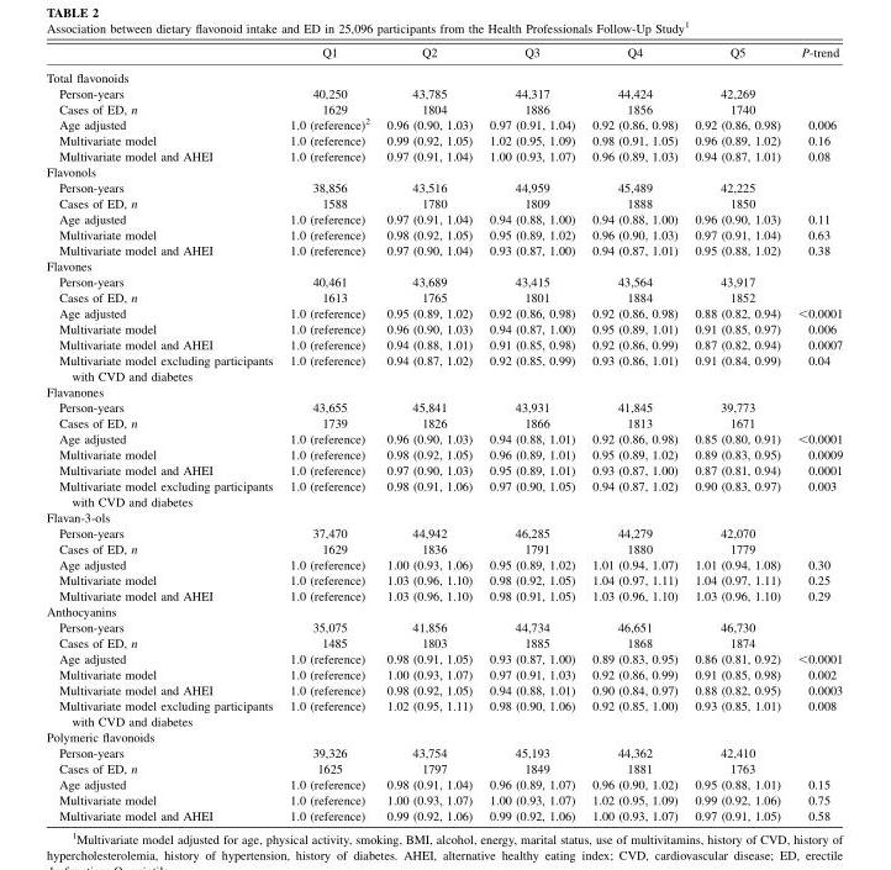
<table><thead><tr><td></td><td>Q1</td><td>Q2</td><td>Q3</td><td>Q4</td><td>Q5</td><td>P-trend</td></tr></thead><tbody><tr><td colspan="7">Total flavonoids</td></tr><tr><td>Person-years</td><td>40,250</td><td>43,785</td><td>44,317</td><td>44,424</td><td>42,269</td><td></td></tr><tr><td>Cases of ED, n</td><td>1629</td><td>1804</td><td>1886</td><td>1856</td><td>1740</td><td></td></tr><tr><td>Age adjusted</td><td>1.0 (reference)<sup>2</sup></td><td>0.96 (0.90, 1.03)</td><td>0.97 (0.91, 1.04)</td><td>0.92 (0.86, 0.98)</td><td>0.92 (0.86, 0.98)</td><td>0.006</td></tr><tr><td>Multivariate model</td><td>1.0 (reference)</td><td>0.99 (0.92, 1.05)</td><td>1.02 (0.95, 1.09)</td><td>0.98 (0.91, 1.05)</td><td>0.96 (0.89, 1.02)</td><td>0.16</td></tr><tr><td>Multivariate model and AHEI</td><td>1.0 (reference)</td><td>0.97 (0.91, 1.04)</td><td>1.00 (0.93, 1.07)</td><td>0.96 (0.89, 1.03)</td><td>0.94 (0.87, 1.01)</td><td>0.08</td></tr><tr><td colspan="7">Flavonols</td></tr><tr><td>Person-years</td><td>38,856</td><td>43,516</td><td>44,959</td><td>45,489</td><td>42,225</td><td></td></tr><tr><td>Cases of ED, n</td><td>1588</td><td>1780</td><td>1809</td><td>1888</td><td>1850</td><td></td></tr><tr><td>Age adjusted</td><td>1.0 (reference)</td><td>0.97 (0.91, 1.04)</td><td>0.94 (0.88, 1.00)</td><td>0.94 (0.88, 1.00)</td><td>0.96 (0.90, 1.03)</td><td>0.11</td></tr><tr><td>Multivariate model</td><td>1.0 (reference)</td><td>0.98 (0.92, 1.05)</td><td>0.95 (0.89, 1.02)</td><td>0.96 (0.90, 1.03)</td><td>0.97 (0.91, 1.04)</td><td>0.63</td></tr><tr><td>Multivariate model and AHEI</td><td>1.0 (reference)</td><td>0.97 (0.90, 1.04)</td><td>0.93 (0.87, 1.00)</td><td>0.94 (0.87, 1.01)</td><td>0.95 (0.88, 1.02)</td><td>0.38</td></tr><tr><td colspan="7">Flavones</td></tr><tr><td>Person-years</td><td>40,461</td><td>43,689</td><td>43,415</td><td>43,564</td><td>43,917</td><td></td></tr><tr><td>Cases of ED, n</td><td>1613</td><td>1765</td><td>1801</td><td>1884</td><td>1852</td><td></td></tr><tr><td>Age adjusted</td><td>1.0 (reference)</td><td>0.95 (0.89, 1.02)</td><td>0.92 (0.86, 0.98)</td><td>0.92 (0.86, 0.98)</td><td>0.88 (0.82, 0.94)</td><td>&lt;0.0001</td></tr><tr><td>Multivariate model</td><td>1.0 (reference)</td><td>0.96 (0.90, 1.03)</td><td>0.94 (0.87, 1.00)</td><td>0.95 (0.89, 1.01)</td><td>0.91 (0.85, 0.97)</td><td>0.006</td></tr><tr><td>Multivariate model and AHEI</td><td>1.0 (reference)</td><td>0.94 (0.88, 1.01)</td><td>0.91 (0.85, 0.98)</td><td>0.92 (0.86, 0.99)</td><td>0.87 (0.82, 0.94)</td><td>0.0007</td></tr><tr><td>Multivariate model excluding participants with CVD and diabetes</td><td>1.0 (reference)</td><td>0.94 (0.87, 1.02)</td><td>0.92 (0.85, 0.99)</td><td>0.93 (0.86, 1.01)</td><td>0.91 (0.84, 0.99)</td><td>0.04</td></tr><tr><td colspan="7">Flavanones</td></tr><tr><td>Person-years</td><td>43,655</td><td>45,841</td><td>43,931</td><td>41,845</td><td>39,773</td><td></td></tr><tr><td>Cases of ED, n</td><td>1739</td><td>1826</td><td>1866</td><td>1813</td><td>1671</td><td></td></tr><tr><td>Age adjusted</td><td>1.0 (reference)</td><td>0.96 (0.90, 1.03)</td><td>0.94 (0.88, 1.01)</td><td>0.92 (0.86, 0.98)</td><td>0.85 (0.80, 0.91)</td><td>&lt;0.0001</td></tr><tr><td>Multivariate model</td><td>1.0 (reference)</td><td>0.98 (0.92, 1.05)</td><td>0.96 (0.89, 1.01)</td><td>0.95 (0.89, 1.02)</td><td>0.89 (0.83, 0.95)</td><td>0.0009</td></tr><tr><td>Multivariate model and AHEI</td><td>1.0 (reference)</td><td>0.97 (0.90, 1.03)</td><td>0.95 (0.89, 1.01)</td><td>0.93 (0.87, 1.00)</td><td>0.87 (0.81, 0.94)</td><td>0.0001</td></tr><tr><td>Multivariate model excluding participants with CVD and diabetes</td><td>1.0 (reference)</td><td>0.98 (0.91, 1.06)</td><td>0.97 (0.90, 1.05)</td><td>0.94 (0.87, 1.02)</td><td>0.90 (0.83, 0.97)</td><td>0.003</td></tr><tr><td colspan="7">Flavan-3-ols</td></tr><tr><td>Person-years</td><td>37,470</td><td>44,942</td><td>46,285</td><td>44,279</td><td>42,070</td><td></td></tr><tr><td>Cases of ED, n</td><td>1629</td><td>1836</td><td>1791</td><td>1880</td><td>1779</td><td></td></tr><tr><td>Age adjusted</td><td>1.0 (reference)</td><td>1.00 (0.93, 1.06)</td><td>0.95 (0.89, 1.02)</td><td>1.01 (0.94, 1.07)</td><td>1.01 (0.94, 1.08)</td><td>0.30</td></tr><tr><td>Multivariate model</td><td>1.0 (reference)</td><td>1.03 (0.96, 1.10)</td><td>0.98 (0.92, 1.05)</td><td>1.04 (0.97, 1.11)</td><td>1.04 (0.97, 1.11)</td><td>0.25</td></tr><tr><td>Multivariate model and AHEI</td><td>1.0 (reference)</td><td>1.03 (0.96, 1.10)</td><td>0.98 (0.91, 1.05)</td><td>1.03 (0.96, 1.10)</td><td>1.03 (0.96, 1.10)</td><td>0.29</td></tr><tr><td colspan="7">Anthocyanins</td></tr><tr><td>Person-years</td><td>35,075</td><td>41,856</td><td>44,734</td><td>46,651</td><td>46,730</td><td></td></tr><tr><td>Cases of ED, n</td><td>1485</td><td>1803</td><td>1885</td><td>1868</td><td>1874</td><td></td></tr><tr><td>Age adjusted</td><td>1.0 (reference)</td><td>0.98 (0.91, 1.05)</td><td>0.93 (0.87, 1.00)</td><td>0.89 (0.83, 0.95)</td><td>0.86 (0.81, 0.92)</td><td>&lt;0.0001</td></tr><tr><td>Multivariate model</td><td>1.0 (reference)</td><td>1.00 (0.93, 1.07)</td><td>0.97 (0.91, 1.03)</td><td>0.92 (0.86, 0.99)</td><td>0.91 (0.85, 0.98)</td><td>0.002</td></tr><tr><td>Multivariate model and AHEI</td><td>1.0 (reference)</td><td>0.98 (0.92, 1.05)</td><td>0.94 (0.88, 1.01)</td><td>0.90 (0.84, 0.97)</td><td>0.88 (0.82, 0.95)</td><td>0.0003</td></tr><tr><td>Multivariate model excluding participants with CVD and diabetes</td><td>1.0 (reference)</td><td>1.02 (0.95, 1.11)</td><td>0.98 (0.90, 1.06)</td><td>0.92 (0.85, 1.00)</td><td>0.93 (0.85, 1.01)</td><td>0.008</td></tr><tr><td colspan="7">Polymeric flavonoids</td></tr><tr><td>Person-years</td><td>39,326</td><td>43,754</td><td>45,193</td><td>44,362</td><td>42,410</td><td></td></tr><tr><td>Cases of ED, n</td><td>1625</td><td>1797</td><td>1849</td><td>1881</td><td>1763</td><td></td></tr><tr><td>Age adjusted</td><td>1.0 (reference)</td><td>0.98 (0.91, 1.04)</td><td>0.96 (0.89, 1.07)</td><td>0.96 (0.90, 1.02)</td><td>0.95 (0.88, 1.01)</td><td>0.15</td></tr><tr><td>Multivariate model</td><td>1.0 (reference)</td><td>1.00 (0.93, 1.07)</td><td>1.00 (0.93, 1.07)</td><td>1.02 (0.95, 1.09)</td><td>0.99 (0.92, 1.06)</td><td>0.75</td></tr><tr><td>Multivariate model and AHEI</td><td>1.0 (reference)</td><td>0.99 (0.92, 1.06)</td><td>0.99 (0.92, 1.06)</td><td>1.00 (0.93, 1.07)</td><td>0.97 (0.91, 1.05)</td><td>0.58</td></tr></tbody></table>